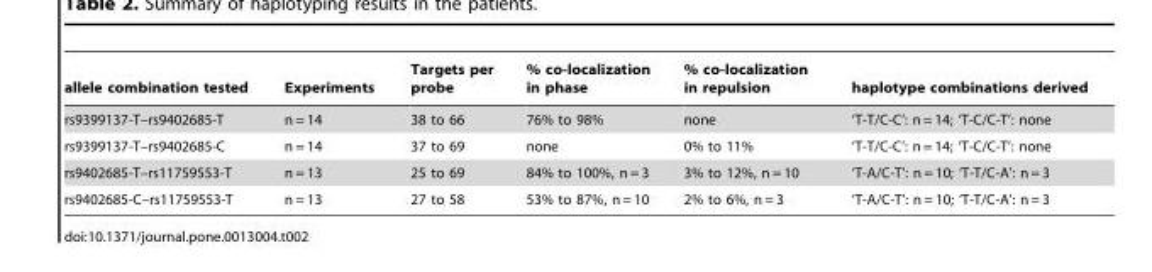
<table><thead><tr><td>allele combination tested</td><td>Experiments</td><td>Targets per probe</td><td>% co-localization in phase</td><td>% co-localization in repulsion</td><td>haplotype combinations derived</td></tr></thead><tbody><tr><td>rs9399137-T–rs9402685-T</td><td>n = 14</td><td>38 to 66</td><td>76% to 98%</td><td>none</td><td>‘T-T/C-C’: n = 14; ‘T-C/C-T’: none</td></tr><tr><td>rs9399137-T–rs9402685-C</td><td>n = 14</td><td>37 to 69</td><td>none</td><td>0% to 11%</td><td>‘T-T/C-C’: n = 14; ‘T-C/C-T’: none</td></tr><tr><td>rs9402685-T–rs11759553-T</td><td>n = 13</td><td>25 to 69</td><td>84% to 100%, n = 3</td><td>3% to 12%, n = 10</td><td>‘T-A/C-T’: n = 10; ‘T-T/C-A’: n = 3</td></tr><tr><td>rs9402685-C–rs11759553-T</td><td>n = 13</td><td>27 to 58</td><td>53% to 87%, n = 10</td><td>2% to 6%, n = 3</td><td>‘T-A/C-T’: n = 10; ‘T-T/C-A’: n = 3</td></tr></tbody></table>